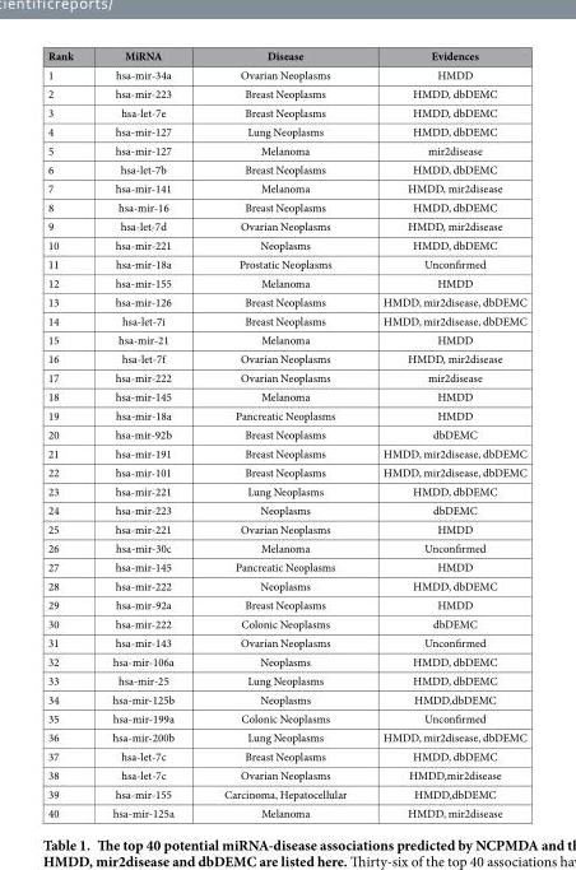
<table><thead><tr><td>Rank</td><td>MiRNA</td><td>Disease</td><td>Evidences</td></tr></thead><tbody><tr><td>1</td><td>hsa-mir-34a</td><td>Ovarian Neoplasms</td><td>HMDD</td></tr><tr><td>2</td><td>hsa-mir-223</td><td>Breast Neoplasms</td><td>HMDD, dbDEMC</td></tr><tr><td>3</td><td>hsa-let-7e</td><td>Breast Neoplasms</td><td>HMDD, dbDEMC</td></tr><tr><td>4</td><td>hsa-mir-127</td><td>Lung Neoplasms</td><td>HMDD, dbDEMC</td></tr><tr><td>5</td><td>hsa-mir-127</td><td>Melanoma</td><td>mir2disease</td></tr><tr><td>6</td><td>hsa-let-7b</td><td>Breast Neoplasms</td><td>HMDD, dbDEMC</td></tr><tr><td>7</td><td>hsa-mir-141</td><td>Melanoma</td><td>HMDD, mir2disease</td></tr><tr><td>8</td><td>hsa-mir-16</td><td>Breast Neoplasms</td><td>HMDD, dbDEMC</td></tr><tr><td>9</td><td>hsa-let-7d</td><td>Ovarian Neoplasms</td><td>HMDD, mir2disease</td></tr><tr><td>10</td><td>hsa-mir-221</td><td>Neoplasms</td><td>HMDD, dbDEMC</td></tr><tr><td>11</td><td>hsa-mir-18a</td><td>Prostatic Neoplasms</td><td>Unconfirmed</td></tr><tr><td>12</td><td>hsa-mir-155</td><td>Melanoma</td><td>HMDD</td></tr><tr><td>13</td><td>hsa-mir-126</td><td>Breast Neoplasms</td><td>HMDD, mir2disease, dbDEMC</td></tr><tr><td>14</td><td>hsa-let-7i</td><td>Breast Neoplasms</td><td>HMDD, mir2disease, dbDEMC</td></tr><tr><td>15</td><td>hsa-mir-21</td><td>Melanoma</td><td>HMDD</td></tr><tr><td>16</td><td>hsa-let-7f</td><td>Ovarian Neoplasms</td><td>HMDD, mir2disease</td></tr><tr><td>17</td><td>hsa-mir-222</td><td>Ovarian Neoplasms</td><td>mir2disease</td></tr><tr><td>18</td><td>hsa-mir-145</td><td>Melanoma</td><td>HMDD</td></tr><tr><td>19</td><td>hsa-mir-18a</td><td>Pancreatic Neoplasms</td><td>HMDD</td></tr><tr><td>20</td><td>hsa-mir-92b</td><td>Breast Neoplasms</td><td>dbDEMC</td></tr><tr><td>21</td><td>hsa-mir-191</td><td>Breast Neoplasms</td><td>HMDD, mir2disease, dbDEMC</td></tr><tr><td>22</td><td>hsa-mir-101</td><td>Breast Neoplasms</td><td>HMDD, mir2disease, dbDEMC</td></tr><tr><td>23</td><td>hsa-mir-221</td><td>Lung Neoplasms</td><td>HMDD, dbDEMC</td></tr><tr><td>24</td><td>hsa-mir-223</td><td>Neoplasms</td><td>dbDEMC</td></tr><tr><td>25</td><td>hsa-mir-221</td><td>Ovarian Neoplasms</td><td>HMDD</td></tr><tr><td>26</td><td>hsa-mir-30c</td><td>Melanoma</td><td>Unconfirmed</td></tr><tr><td>27</td><td>hsa-mir-145</td><td>Pancreatic Neoplasms</td><td>HMDD</td></tr><tr><td>28</td><td>hsa-mir-222</td><td>Neoplasms</td><td>HMDD, dbDEMC</td></tr><tr><td>29</td><td>hsa-mir-92a</td><td>Breast Neoplasms</td><td>HMDD</td></tr><tr><td>30</td><td>hsa-mir-222</td><td>Colonic Neoplasms</td><td>dbDEMC</td></tr><tr><td>31</td><td>hsa-mir-143</td><td>Ovarian Neoplasms</td><td>Unconfirmed</td></tr><tr><td>32</td><td>hsa-mir-106a</td><td>Neoplasms</td><td>HMDD, dbDEMC</td></tr><tr><td>33</td><td>hsa-mir-25</td><td>Lung Neoplasms</td><td>HMDD, dbDEMC</td></tr><tr><td>34</td><td>hsa-mir-125b</td><td>Neoplasms</td><td>HMDD,dbDEMC</td></tr><tr><td>35</td><td>hsa-mir-199a</td><td>Colonic Neoplasms</td><td>Unconfirmed</td></tr><tr><td>36</td><td>hsa-mir-200b</td><td>Lung Neoplasms</td><td>HMDD, mir2disease, dbDEMC</td></tr><tr><td>37</td><td>hsa-let-7c</td><td>Breast Neoplasms</td><td>HMDD, dbDEMC</td></tr><tr><td>38</td><td>hsa-let-7c</td><td>Ovarian Neoplasms</td><td>HMDD,mir2disease</td></tr><tr><td>39</td><td>hsa-mir-155</td><td>Carcinoma, Hepatocellular</td><td>HMDD,dbDEMC</td></tr><tr><td>40</td><td>hsa-mir-125a</td><td>Melanoma</td><td>HMDD, mir2disease</td></tr></tbody></table>